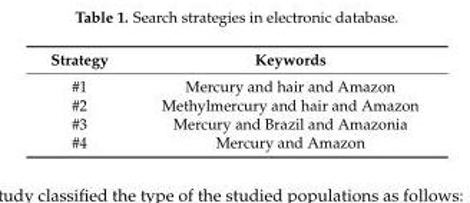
<table><thead><tr><td>Strategy</td><td>Keywords</td></tr></thead><tbody><tr><td>#1</td><td>Mercury and hair and Amazon</td></tr><tr><td>#2</td><td>Methylmercury and hair and Amazon</td></tr><tr><td>#3</td><td>Mercury and Brazil and Amazonia</td></tr><tr><td>#4</td><td>Mercury and Amazon</td></tr></tbody></table>